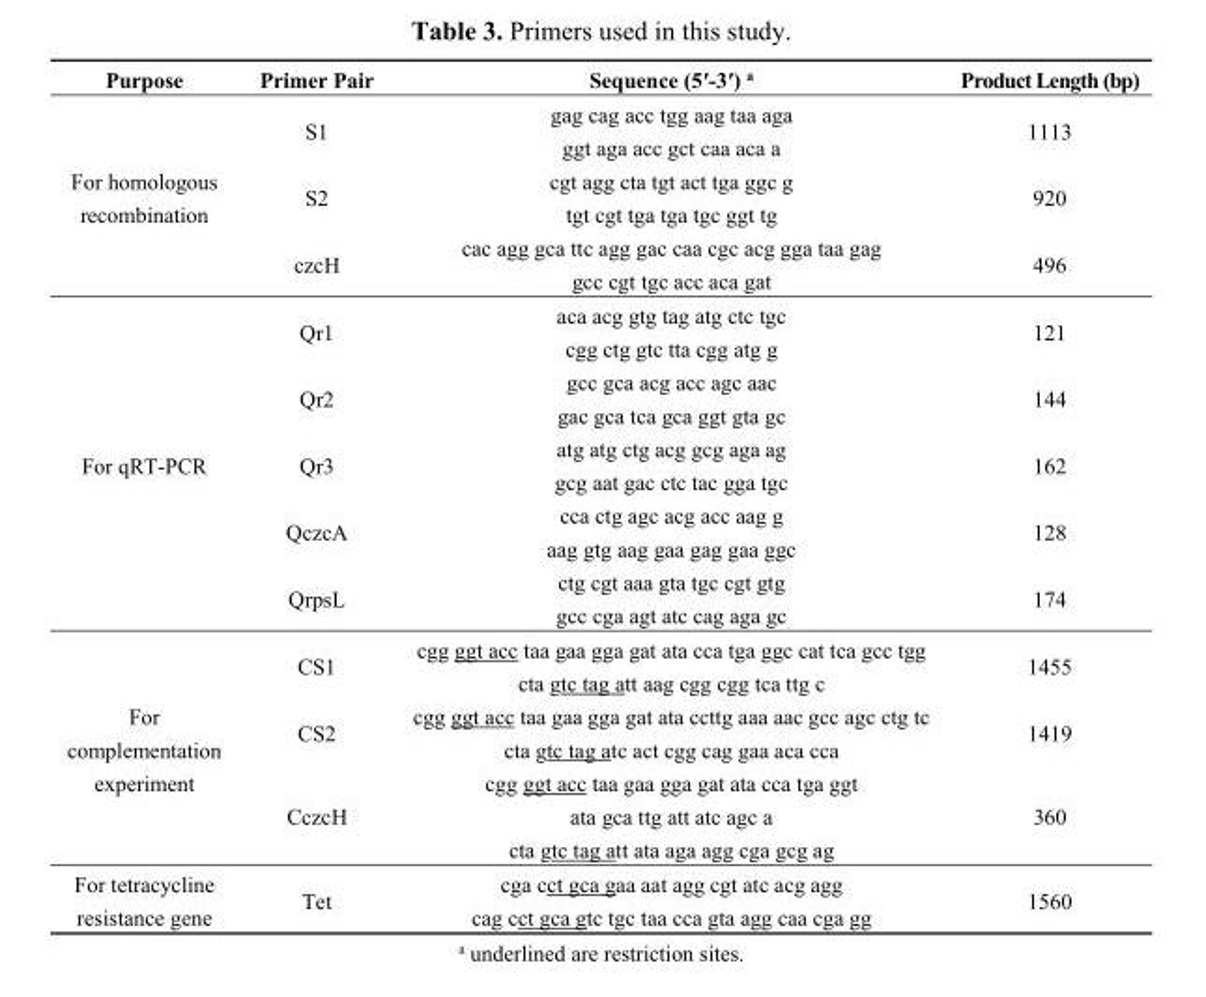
<table><thead><tr><td>Purpose</td><td>Primer Pair</td><td>Sequence (5ʹ-3ʹ) <sup>a</sup></td><td>Product Length (bp)</td></tr></thead><tbody><tr><td rowspan="6">For homologous recombination</td><td rowspan="2">S1</td><td>gag cag acc tgg aag taa aga</td><td rowspan="2">1113</td></tr><tr><td>ggt aga acc gct caa aca a</td></tr><tr><td rowspan="2">S2</td><td>cgt agg cta tgt act tga ggc g</td><td rowspan="2">920</td></tr><tr><td>tgt cgt tga tga tgc ggt tg</td></tr><tr><td rowspan="2">czcH</td><td>cac agg gca ttc agg gac caa cgc acg gga taa gag</td><td rowspan="2">496</td></tr><tr><td>gcc cgt tgc acc aca gat</td></tr><tr><td rowspan="10">For qRT-PCR</td><td rowspan="2">Qr1</td><td>aca acg gtg tag atg ctc tgc</td><td rowspan="2">121</td></tr><tr><td>cgg ctg gtc tta cgg atg g</td></tr><tr><td rowspan="2">Qr2</td><td>gcc gca acg acc agc aac</td><td rowspan="2">144</td></tr><tr><td>gac gca tca gca ggt gta gc</td></tr><tr><td rowspan="2">Qr3</td><td>atg atg ctg acg gcg aga ag</td><td rowspan="2">162</td></tr><tr><td>gcg aat gac ctc tac gga tgc</td></tr><tr><td rowspan="2">QczcA</td><td>cca ctg agc acg acc aag g</td><td rowspan="2">128</td></tr><tr><td>aag gtg aag gaa gag gaa ggc</td></tr><tr><td rowspan="2">QrpsL</td><td>ctg cgt aaa gta tgc cgt gtg</td><td rowspan="2">174</td></tr><tr><td>gcc cga agt atc cag aga gc</td></tr><tr><td rowspan="6">For complementation experiment</td><td rowspan="2">CS1</td><td>cgg ggt acc taa gaa gga gat ata cca tga ggc cat tca gcc tgg</td><td rowspan="2">1455</td></tr><tr><td>cta gtc tag att aag cgg cgg tca ttg c</td></tr><tr><td rowspan="2">CS2</td><td>cgg ggt acc taa gaa gga gat ata ccttg aaa aac gcc agc ctg tc</td><td rowspan="2">1419</td></tr><tr><td>cta gtc tag atc act cgg cag gaa aca cca</td></tr><tr><td rowspan="2">CczcH</td><td>cgg ggt acc taa gaa gga gat ata cca tga ggt ata gca ttg att atc agc a</td><td rowspan="2">360</td></tr><tr><td>cta gtc tag att ata aga agg cga gcg ag</td></tr><tr><td rowspan="2">For tetracycline resistance gene</td><td rowspan="2">Tet</td><td>cga cct gca gaa aat agg cgt atc acg agg</td><td rowspan="2">1560</td></tr><tr><td>cag cct gca gtc tgc taa cca gta agg caa cga gg</td></tr></tbody></table>